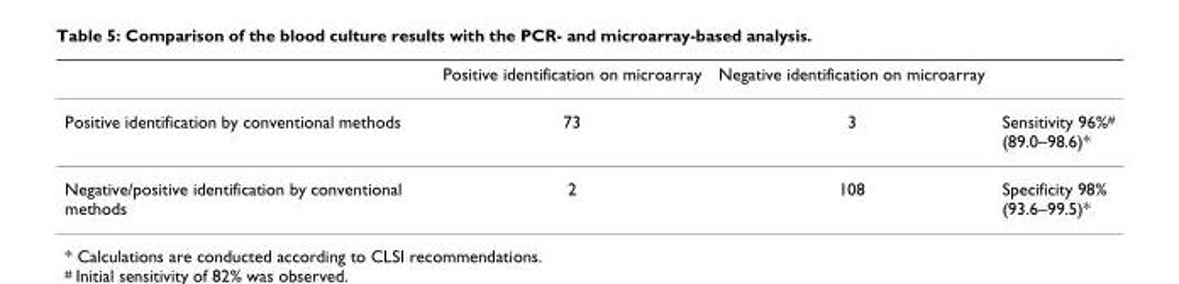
<table><thead><tr><td></td><td>Positive identification on microarray</td><td>Negative identification on microarray</td><td></td></tr></thead><tbody><tr><td>Positive identification by conventional methods</td><td>73</td><td>3</td><td>Sensitivity 96%<sup>#</sup> (89.0–98.6)*</td></tr><tr><td>Negative/positive identification by conventional methods</td><td>2</td><td>108</td><td>Specificity 98% (93.6–99.5)*</td></tr></tbody></table>